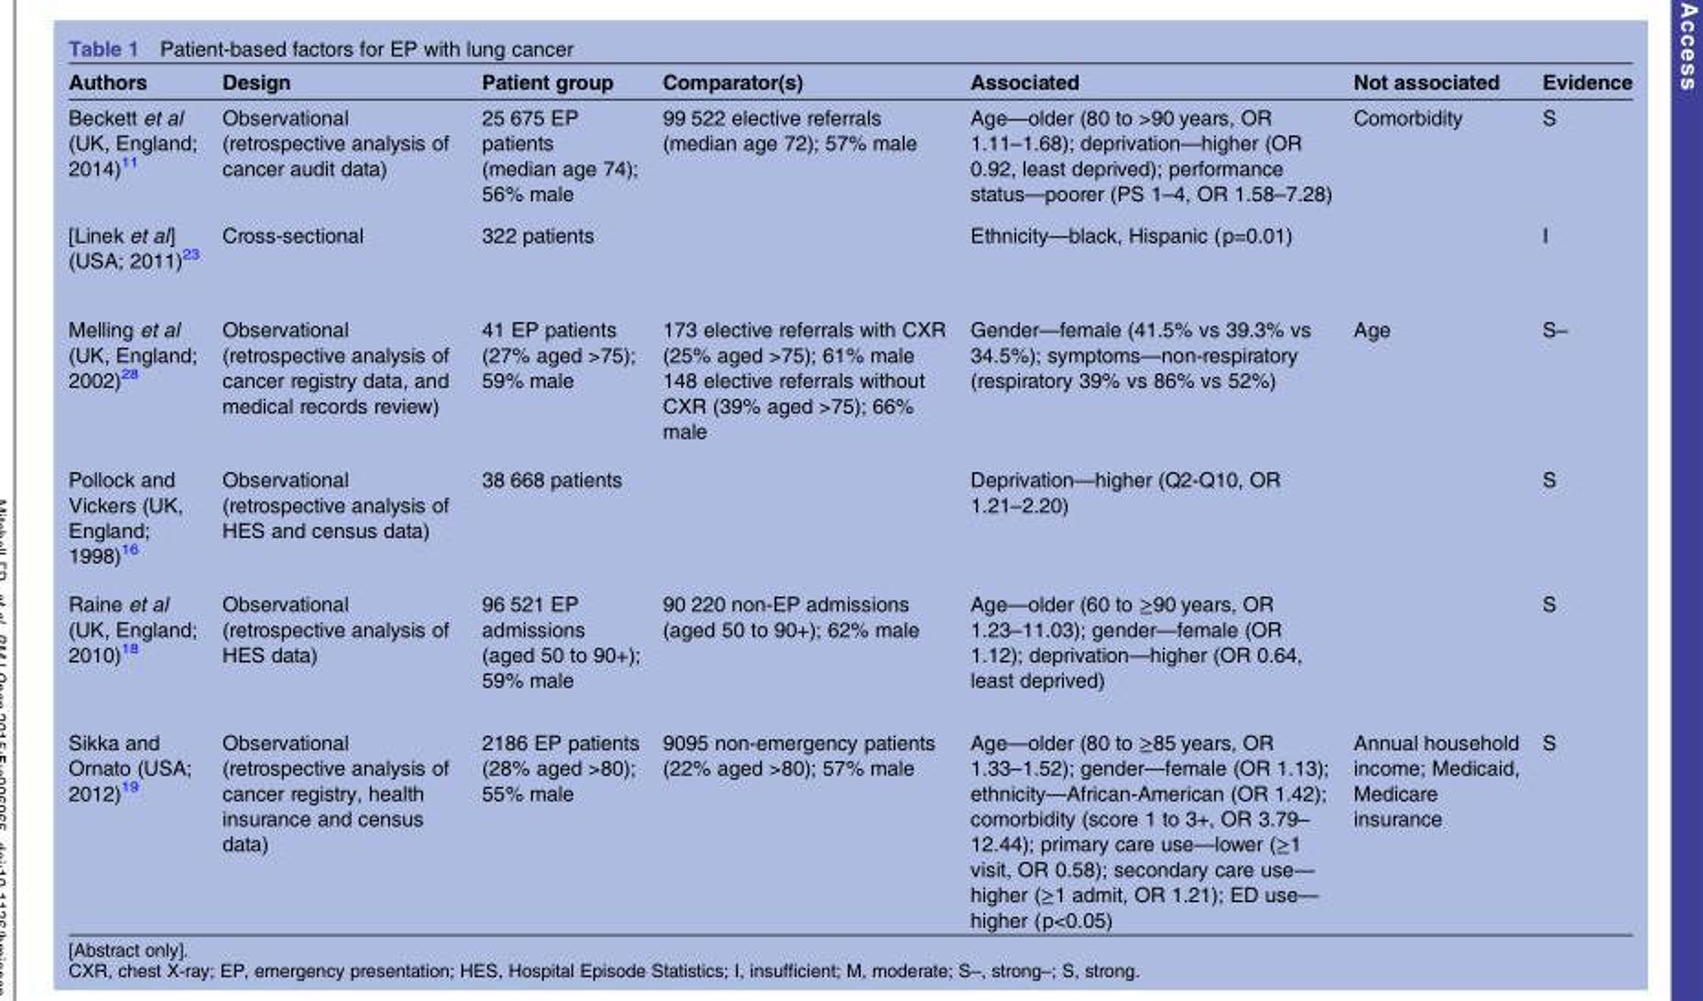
<table><thead><tr><td>Authors</td><td>Design</td><td>Patient group</td><td>Comparator(s)</td><td>Associated</td><td>Not associated</td><td>Evidence</td></tr></thead><tbody><tr><td>Beckett et al (UK, England; 2014)<sup>11</sup></td><td>Observational (retrospective analysis of cancer audit data)</td><td>25 675 EP patients (median age 74); 56% male</td><td>99 522 elective referrals (median age 72); 57% male</td><td>Age—older (80 to &gt;90 years, OR 1.11–1.68); deprivation—higher (OR 0.92, least deprived); performance status—poorer (PS 1–4, OR 1.58–7.28)</td><td>Comorbidity</td><td>S</td></tr><tr><td>[Linek et al] (USA; 2011)<sup>23</sup></td><td>Cross-sectional</td><td>322 patients</td><td></td><td>Ethnicity—black, Hispanic (p=0.01)</td><td></td><td>I</td></tr><tr><td>Melling et al (UK, England; 2002)<sup>28</sup></td><td>Observational (retrospective analysis of cancer registry data, and medical records review)</td><td>41 EP patients (27% aged &gt;75); 59% male</td><td>173 elective referrals with CXR (25% aged &gt;75); 61% male 148 elective referrals without CXR (39% aged &gt;75); 66% male</td><td>Gender—female (41.5% vs 39.3% vs 34.5%); symptoms—non-respiratory (respiratory 39% vs 86% vs 52%)</td><td>Age</td><td>S–</td></tr><tr><td>Pollock and Vickers (UK, England; 1998)<sup>16</sup></td><td>Observational (retrospective analysis of HES and census data)</td><td>38 668 patients</td><td></td><td>Deprivation—higher (Q2-Q10, OR 1.21–2.20)</td><td></td><td>S</td></tr><tr><td>Raine et al (UK, England; 2010)<sup>18</sup></td><td>Observational (retrospective analysis of HES data)</td><td>96 521 EP admissions (aged 50 to 90+); 59% male</td><td>90 220 non-EP admissions (aged 50 to 90+); 62% male</td><td>Age—older (60 to ≥90 years, OR 1.23–11.03); gender—female (OR 1.12); deprivation—higher (OR 0.64, least deprived)</td><td></td><td>S</td></tr><tr><td>Sikka and Ornato (USA; 2012)<sup>19</sup></td><td>Observational (retrospective analysis of cancer registry, health insurance and census data)</td><td>2186 EP patients (28% aged &gt;80); 55% male</td><td>9095 non-emergency patients (22% aged &gt;80); 57% male</td><td>Age—older (80 to ≥85 years, OR 1.33–1.52); gender—female (OR 1.13); ethnicity—African-American (OR 1.42); comorbidity (score 1 to 3+, OR 3.79– 12.44); primary care use—lower (≥1 visit, OR 0.58); secondary care use— higher (≥1 admit, OR 1.21); ED use— higher (p&lt;0.05)</td><td>Annual household income; Medicaid, Medicare insurance</td><td>S</td></tr></tbody></table>